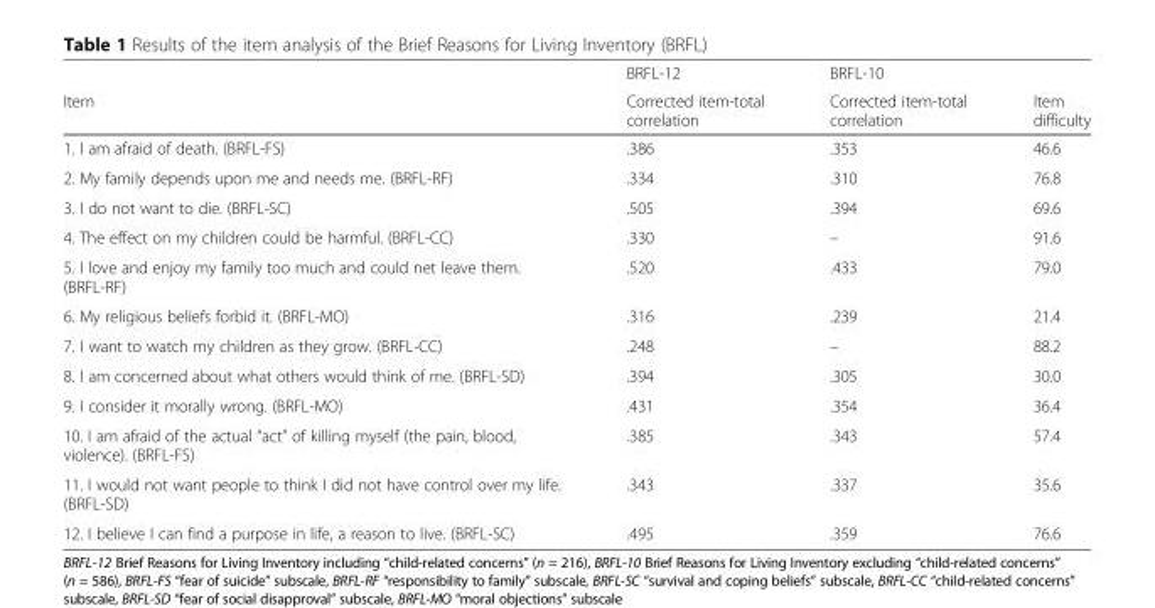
<table><thead><tr><td rowspan="2">Item</td><td rowspan="2">BRFL-12 Corrected item-total correlation</td><td rowspan="2">BRFL-10 Corrected item-total correlation</td><td rowspan="2">Item difficulty</td></tr><tr></tr></thead><tbody><tr><td>1. I am afraid of death. (BRFL-FS)</td><td>.386</td><td>.353</td><td>46.6</td></tr><tr><td>2. My family depends upon me and needs me. (BRFL-RF)</td><td>.334</td><td>.310</td><td>76.8</td></tr><tr><td>3. I do not want to die. (BRFL-SC)</td><td>.505</td><td>.394</td><td>69.6</td></tr><tr><td>4. The effect on my children could be harmful. (BRFL-CC)</td><td>.330</td><td>–</td><td>91.6</td></tr><tr><td>5. I love and enjoy my family too much and could net leave them. (BRFL-RF)</td><td>.520</td><td>.433</td><td>79.0</td></tr><tr><td>6. My religious beliefs forbid it. (BRFL-MO)</td><td>.316</td><td>.239</td><td>21.4</td></tr><tr><td>7. I want to watch my children as they grow. (BRFL-CC)</td><td>.248</td><td>–</td><td>88.2</td></tr><tr><td>8. I am concerned about what others would think of me. (BRFL-SD)</td><td>.394</td><td>.305</td><td>30.0</td></tr><tr><td>9. I consider it morally wrong. (BRFL-MO)</td><td>.431</td><td>.354</td><td>36.4</td></tr><tr><td>10. I am afraid of the actual “act” of killing myself (the pain, blood, violence). (BRFL-FS)</td><td>.385</td><td>.343</td><td>57.4</td></tr><tr><td>11. I would not want people to think I did not have control over my life. (BRFL-SD)</td><td>.343</td><td>.337</td><td>35.6</td></tr><tr><td>12. I believe I can find a purpose in life, a reason to live. (BRFL-SC)</td><td>.495</td><td>.359</td><td>76.6</td></tr></tbody></table>